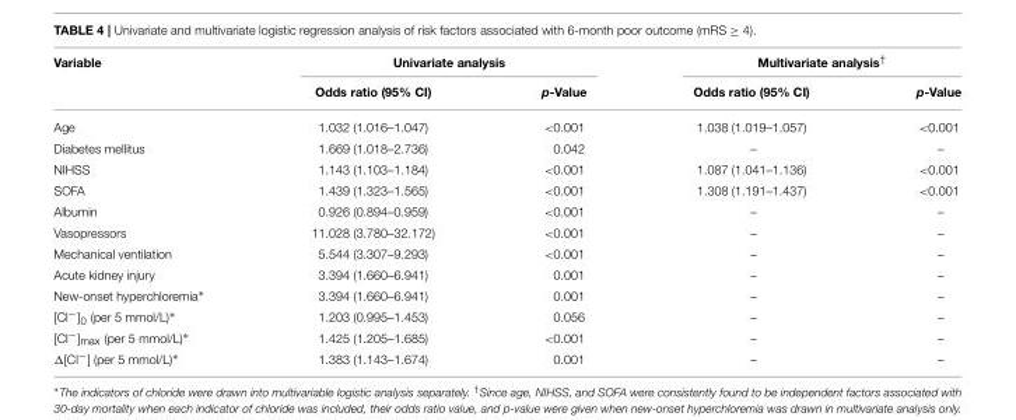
<table><thead><tr><td rowspan="2">Variable</td><td colspan="2">Univariate analysis</td><td colspan="2">Multivariate analysis<sup>†</sup></td></tr><tr><td>Odds ratio (95% CI)</td><td>p-Value</td><td>Odds ratio (95% CI)</td><td>p-Value</td></tr></thead><tbody><tr><td>Age</td><td>1.032 (1.016–1.047)</td><td>&lt;0.001</td><td>1.038 (1.019–1.057)</td><td>&lt;0.001</td></tr><tr><td>Diabetes mellitus</td><td>1.669 (1.018–2.736)</td><td>0.042</td><td>–</td><td>–</td></tr><tr><td>NIHSS</td><td>1.143 (1.103–1.184)</td><td>&lt;0.001</td><td>1.087 (1.041–1.136)</td><td>&lt;0.001</td></tr><tr><td>SOFA</td><td>1.439 (1.323–1.565)</td><td>&lt;0.001</td><td>1.308 (1.191–1.437)</td><td>&lt;0.001</td></tr><tr><td>Albumin</td><td>0.926 (0.894–0.959)</td><td>&lt;0.001</td><td>–</td><td>–</td></tr><tr><td>Vasopressors</td><td>11.028 (3.780–32.172)</td><td>&lt;0.001</td><td>–</td><td>–</td></tr><tr><td>Mechanical ventilation</td><td>5.544 (3.307–9.293)</td><td>&lt;0.001</td><td>–</td><td>–</td></tr><tr><td>Acute kidney injury</td><td>3.394 (1.660–6.941)</td><td>0.001</td><td>–</td><td>–</td></tr><tr><td>New-onset hyperchloremia∗</td><td>3.394 (1.660–6.941)</td><td>0.001</td><td>–</td><td>–</td></tr><tr><td>[Cl−]0 (per 5 mmol/L)∗</td><td>1.203 (0.995–1.453)</td><td>0.056</td><td>–</td><td>–</td></tr><tr><td>[Cl−]max (per 5 mmol/L)∗</td><td>1.425 (1.205–1.685)</td><td>&lt;0.001</td><td>–</td><td>–</td></tr><tr><td>Δ[Cl−] (per 5 mmol/L)∗</td><td>1.383 (1.143–1.674)</td><td>0.001</td><td>–</td><td>–</td></tr></tbody></table>